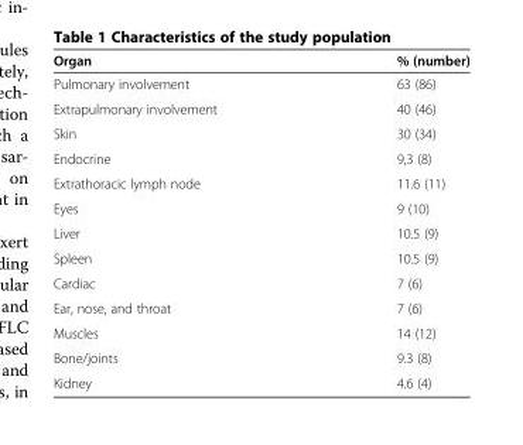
<table><thead><tr><td>Organ</td><td>% (number)</td></tr></thead><tbody><tr><td>Pulmonary involvement</td><td>63 (86)</td></tr><tr><td>Extrapulmonary involvement</td><td>40 (46)</td></tr><tr><td>Skin</td><td>30 (34)</td></tr><tr><td>Endocrine</td><td>9,3 (8)</td></tr><tr><td>Extrathoracic lymph node</td><td>11.6 (11)</td></tr><tr><td>Eyes</td><td>9 (10)</td></tr><tr><td>Liver</td><td>10.5 (9)</td></tr><tr><td>Spleen</td><td>10.5 (9)</td></tr><tr><td>Cardiac</td><td>7 (6)</td></tr><tr><td>Ear, nose, and throat</td><td>7 (6)</td></tr><tr><td>Muscles</td><td>14 (12)</td></tr><tr><td>Bone/joints</td><td>9.3 (8)</td></tr><tr><td>Kidney</td><td>4.6 (4)</td></tr></tbody></table>